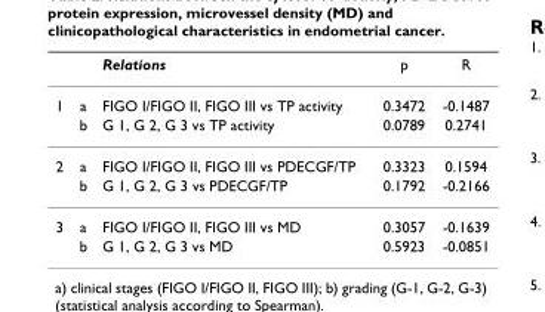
<table><thead><tr><td></td><td></td><td>Relations</td><td>p</td><td>R</td></tr></thead><tbody><tr><td rowspan="2">1</td><td>a</td><td>FIGO I/FIGO II, FIGO III vs TP activity</td><td>0.3472</td><td>-0.1487</td></tr><tr><td>b</td><td>G 1, G 2, G 3 vs TP activity</td><td>0.0789</td><td>0.2741</td></tr><tr><td rowspan="2">2</td><td>a</td><td>FIGO I/FIGO II, FIGO III vs PDECGF/TP</td><td>0.3323</td><td>0.1594</td></tr><tr><td>b</td><td>G 1, G 2, G 3 vs PDECGF/TP</td><td>0.1792</td><td>-0.2166</td></tr><tr><td rowspan="2">3</td><td>a</td><td>FIGO I/FIGO II, FIGO III vs MD</td><td>0.3057</td><td>-0.1639</td></tr><tr><td>b</td><td>G 1, G 2, G 3 vs MD</td><td>0.5923</td><td>-0.0851</td></tr></tbody></table>